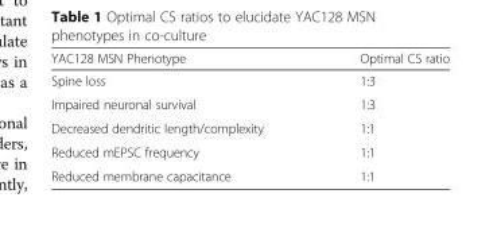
<table><thead><tr><td>YAC128 MSN Phenotype</td><td>Optimal CS ratio</td></tr></thead><tbody><tr><td>Spine loss</td><td>1:3</td></tr><tr><td>Impaired neuronal survival</td><td>1:3</td></tr><tr><td>Decreased dendritic length/complexity</td><td>1:1</td></tr><tr><td>Reduced mEPSC frequency</td><td>1:1</td></tr><tr><td>Reduced membrane capacitance</td><td>1:1</td></tr></tbody></table>